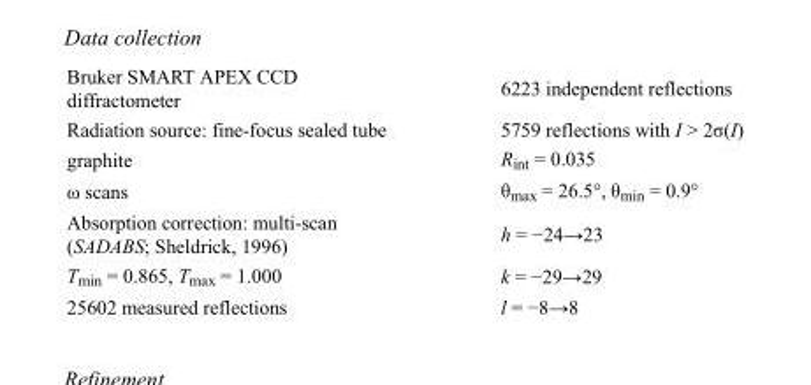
<table><tbody><tr><td>Bruker SMART APEX CCD diffractometer</td><td>6223 independent reflections</td></tr><tr><td>Radiation source: fine-focus sealed tube</td><td>5759 reflections with I &gt; 2σ(I)</td></tr><tr><td>graphite</td><td>R<sub>int</sub> = 0.035</td></tr><tr><td>ω scans</td><td>θ<sub>max</sub> = 26.5°, θ<sub>min</sub> = 0.9°</td></tr><tr><td>Absorption correction: multi-scan (SADABS; Sheldrick, 1996)</td><td>h = −24→23</td></tr><tr><td>T<sub>min</sub> = 0.865, T<sub>max</sub> = 1.000</td><td>k = −29→29</td></tr><tr><td>25602 measured reflections</td><td>l = −8→8</td></tr></tbody></table>